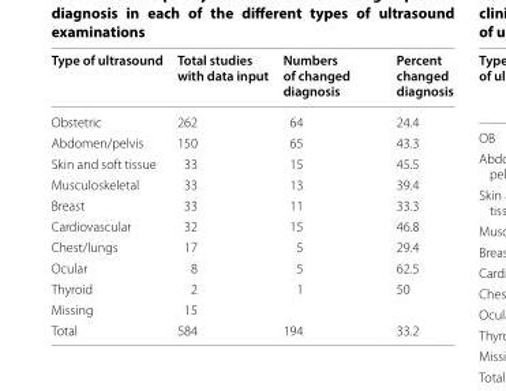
<table><thead><tr><td>Type of ultrasound</td><td>Total studies with data input</td><td>Numbers of changed diagnosis</td><td>Percent changed diagnosis</td></tr></thead><tbody><tr><td>Obstetric</td><td>262</td><td>64</td><td>24.4</td></tr><tr><td>Abdomen/pelvis</td><td>150</td><td>65</td><td>43.3</td></tr><tr><td>Skin and soft tissue</td><td>33</td><td>15</td><td>45.5</td></tr><tr><td>Musculoskeletal</td><td>33</td><td>13</td><td>39.4</td></tr><tr><td>Breast</td><td>33</td><td>11</td><td>33.3</td></tr><tr><td>Cardiovascular</td><td>32</td><td>15</td><td>46.8</td></tr><tr><td>Chest/lungs</td><td>17</td><td>5</td><td>29.4</td></tr><tr><td>Ocular</td><td>8</td><td>5</td><td>62.5</td></tr><tr><td>Thyroid</td><td>2</td><td>1</td><td>50</td></tr><tr><td>Missing</td><td>15</td><td></td><td></td></tr><tr><td>Total</td><td>584</td><td>194</td><td>33.2</td></tr></tbody></table>